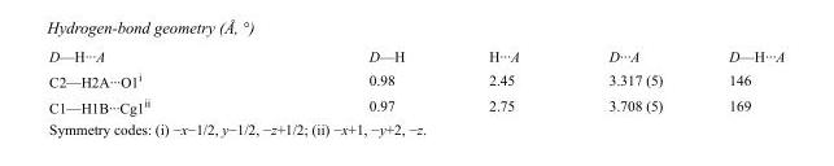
<table><tbody><tr><td>D—H···A</td><td>D—H</td><td>H···A</td><td>D···A</td><td>D—H···A</td></tr><tr><td>C2—H2A···O1<sup>i</sup></td><td>0.98</td><td>2.45</td><td>3.317 (5)</td><td>146</td></tr><tr><td>C1—H1B···Cg1<sup>ii</sup></td><td>0.97</td><td>2.75</td><td>3.708 (5)</td><td>169</td></tr></tbody></table>